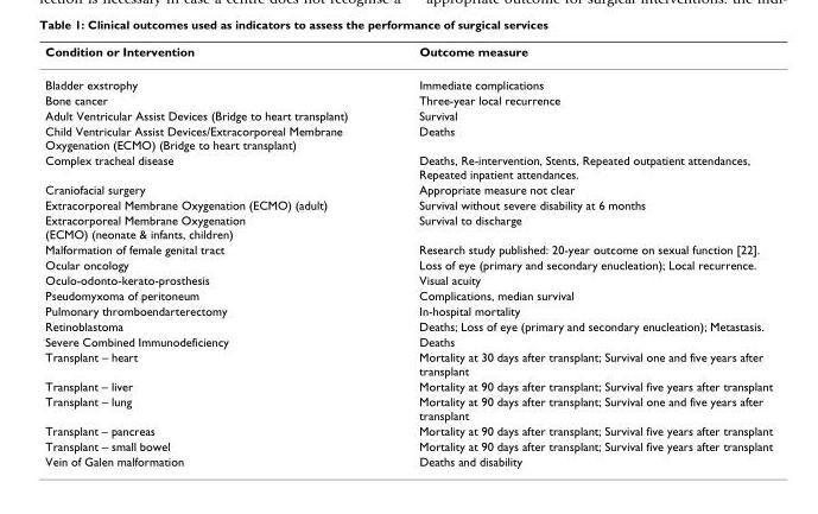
<table><thead><tr><td>Condition or Intervention</td><td>Outcome measure</td></tr></thead><tbody><tr><td>Bladder exstrophy</td><td>Immediate complications</td></tr><tr><td>Bone cancer</td><td>Three-year local recurrence</td></tr><tr><td>Adult Ventricular Assist Devices (Bridge to heart transplant)</td><td>Survival</td></tr><tr><td>Child Ventricular Assist Devices/Extracorporeal Membrane Oxygenation (ECMO) (Bridge to heart transplant)</td><td>Deaths</td></tr><tr><td>Complex tracheal disease</td><td>Deaths, Re-intervention, Stents, Repeated outpatient attendances, Repeated inpatient attendances.</td></tr><tr><td>Craniofacial surgery</td><td>Appropriate measure not clear</td></tr><tr><td>Extracorporeal Membrane Oxygenation (ECMO) (adult)</td><td>Survival without severe disability at 6 months</td></tr><tr><td>Extracorporeal Membrane Oxygenation (ECMO) (neonate &amp; infants, children)</td><td>Survival to discharge</td></tr><tr><td>Malformation of female genital tract</td><td>Research study published: 20-year outcome on sexual function [22].</td></tr><tr><td>Ocular oncology</td><td>Loss of eye (primary and secondary enucleation); Local recurrence.</td></tr><tr><td>Oculo-odonto-kerato-prosthesis</td><td>Visual acuity</td></tr><tr><td>Pseudomyxoma of peritoneum</td><td>Complications, median survival</td></tr><tr><td>Pulmonary thromboendarterectomy</td><td>In-hospital mortality</td></tr><tr><td>Retinoblastoma</td><td>Deaths; Loss of eye (primary and secondary enucleation); Metastasis.</td></tr><tr><td>Severe Combined Immunodeficiency</td><td>Deaths</td></tr><tr><td>Transplant – heart</td><td>Mortality at 30 days after transplant; Survival one and five years after transplant</td></tr><tr><td>Transplant – liver</td><td>Mortality at 90 days after transplant; Survival five years after transplant</td></tr><tr><td>Transplant – lung</td><td>Mortality at 90 days after transplant; Survival one and five years after transplant</td></tr><tr><td>Transplant – pancreas</td><td>Mortality at 90 days after transplant; Survival five years after transplant</td></tr><tr><td>Transplant – small bowel</td><td>Mortality at 90 days after transplant; Survival five years after transplant</td></tr><tr><td>Vein of Galen malformation</td><td>Deaths and disability</td></tr></tbody></table>